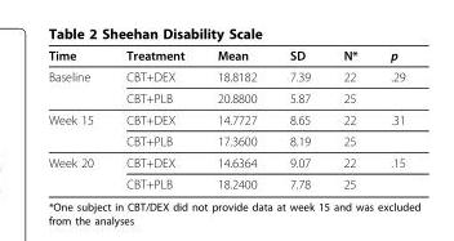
<table><thead><tr><td>Time</td><td>Treatment</td><td>Mean</td><td>SD</td><td>N*</td><td>p</td></tr></thead><tbody><tr><td rowspan="2">Baseline</td><td>CBT+DEX</td><td>18.8182</td><td>7.39</td><td>22</td><td>.29</td></tr><tr><td>CBT+PLB</td><td>20.8800</td><td>5.87</td><td>25</td><td></td></tr><tr><td rowspan="2">Week 15</td><td>CBT+DEX</td><td>14.7727</td><td>8.65</td><td>22</td><td>.31</td></tr><tr><td>CBT+PLB</td><td>17.3600</td><td>8.19</td><td>25</td><td></td></tr><tr><td rowspan="2">Week 20</td><td>CBT+DEX</td><td>14.6364</td><td>9.07</td><td>22</td><td>.15</td></tr><tr><td>CBT+PLB</td><td>18.2400</td><td>7.78</td><td>25</td><td></td></tr></tbody></table>